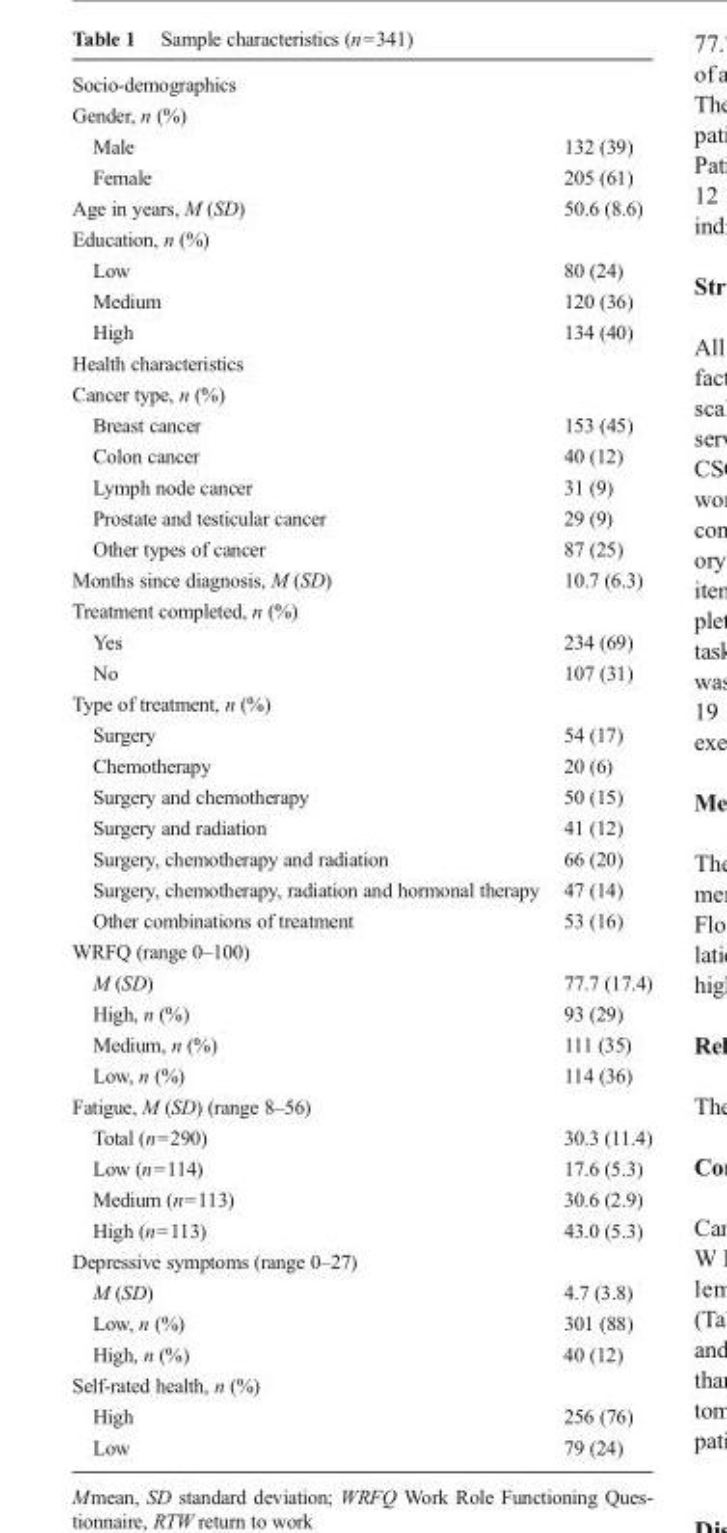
<table><tbody><tr><td colspan="2">Socio-demographics</td></tr><tr><td colspan="2">Gender, n (%)</td></tr><tr><td>Male</td><td>132 (39)</td></tr><tr><td>Female</td><td>205 (61)</td></tr><tr><td>Age in years, M (SD)</td><td>50.6 (8.6)</td></tr><tr><td colspan="2">Education, n (%)</td></tr><tr><td>Low</td><td>80 (24)</td></tr><tr><td>Medium</td><td>120 (36)</td></tr><tr><td>High</td><td>134 (40)</td></tr><tr><td colspan="2">Health characteristics</td></tr><tr><td colspan="2">Cancer type, n (%)</td></tr><tr><td>Breast cancer</td><td>153 (45)</td></tr><tr><td>Colon cancer</td><td>40 (12)</td></tr><tr><td>Lymph node cancer</td><td>31 (9)</td></tr><tr><td>Prostate and testicular cancer</td><td>29 (9)</td></tr><tr><td>Other types of cancer</td><td>87 (25)</td></tr><tr><td>Months since diagnosis, M (SD)</td><td>10.7 (6.3)</td></tr><tr><td colspan="2">Treatment completed, n (%)</td></tr><tr><td>Yes</td><td>234 (69)</td></tr><tr><td>No</td><td>107 (31)</td></tr><tr><td colspan="2">Type of treatment, n (%)</td></tr><tr><td>Surgery</td><td>54 (17)</td></tr><tr><td>Chemotherapy</td><td>20 (6)</td></tr><tr><td>Surgery and chemotherapy</td><td>50 (15)</td></tr><tr><td>Surgery and radiation</td><td>41 (12)</td></tr><tr><td>Surgery, chemotherapy and radiation</td><td>66 (20)</td></tr><tr><td>Surgery, chemotherapy, radiation and hormonal therapy</td><td>47 (14)</td></tr><tr><td>Other combinations of treatment</td><td>53 (16)</td></tr><tr><td colspan="2">WRFQ (range 0–100)</td></tr><tr><td>M (SD)</td><td>77.7 (17.4)</td></tr><tr><td>High, n (%)</td><td>93 (29)</td></tr><tr><td>Medium, n (%)</td><td>111 (35)</td></tr><tr><td>Low, n (%)</td><td>114 (36)</td></tr><tr><td colspan="2">Fatigue, M (SD) (range 8–56)</td></tr><tr><td>Total (n=290)</td><td>30.3 (11.4)</td></tr><tr><td>Low (n=114)</td><td>17.6 (5.3)</td></tr><tr><td>Medium (n=113)</td><td>30.6 (2.9)</td></tr><tr><td>High (n=113)</td><td>43.0 (5.3)</td></tr><tr><td colspan="2">Depressive symptoms (range 0–27)</td></tr><tr><td>M (SD)</td><td>4.7 (3.8)</td></tr><tr><td>Low, n (%)</td><td>301 (88)</td></tr><tr><td>High, n (%)</td><td>40 (12)</td></tr><tr><td colspan="2">Self-rated health, n (%)</td></tr><tr><td>High</td><td>256 (76)</td></tr><tr><td>Low</td><td>79 (24)</td></tr></tbody></table>